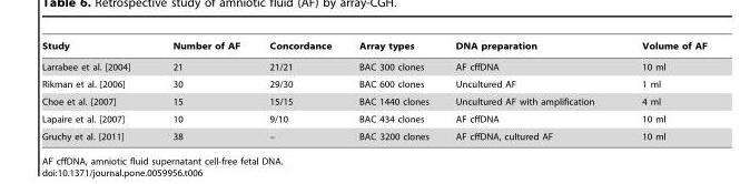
<table><thead><tr><td>Study</td><td>Number of AF</td><td>Concordance</td><td>Array types</td><td>DNA preparation</td><td>Volume of AF</td></tr></thead><tbody><tr><td>Larrabee et al. [2004]</td><td>21</td><td>21/21</td><td>BAC 300 clones</td><td>AF cffDNA</td><td>10 ml</td></tr><tr><td>Rikman et al. [2006]</td><td>30</td><td>29/30</td><td>BAC 600 clones</td><td>Uncultured AF</td><td>1 ml</td></tr><tr><td>Choe et al. [2007]</td><td>15</td><td>15/15</td><td>BAC 1440 clones</td><td>Uncultured AF with amplification</td><td>4 ml</td></tr><tr><td>Lapaire et al. [2007]</td><td>10</td><td>9/10</td><td>BAC 434 clones</td><td>AF cffDNA</td><td>10 ml</td></tr><tr><td>Gruchy et al. [2011]</td><td>38</td><td>–</td><td>BAC 3200 clones</td><td>AF cffDNA, cultured AF</td><td>10 ml</td></tr></tbody></table>